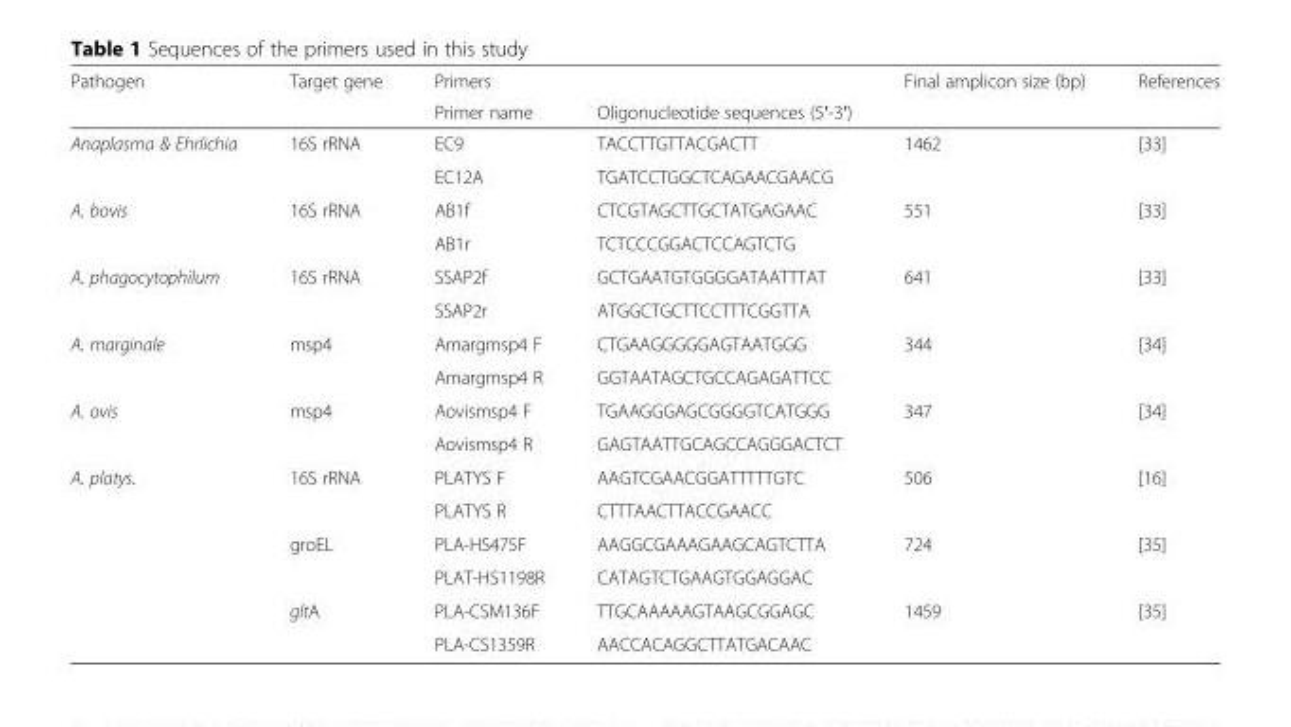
<table><thead><tr><td rowspan="2">Pathogen</td><td rowspan="2">Target gene</td><td colspan="2">Primers</td><td rowspan="2">Final amplicon size (bp)</td><td rowspan="2">References</td></tr><tr><td>Primer name</td><td>Oligonucleotide sequences (5′-3′)</td></tr></thead><tbody><tr><td rowspan="2">Anaplasma &amp; Ehrlichia</td><td rowspan="2">16S rRNA</td><td>EC9</td><td>TACCTTGTTACGACTT</td><td rowspan="2">1462</td><td rowspan="2">[33]</td></tr><tr><td>EC12A</td><td>TGATCCTGGCTCAGAACGAACG</td></tr><tr><td rowspan="2">A. bovis</td><td rowspan="2">16S rRNA</td><td>AB1f</td><td>CTCGTAGCTTGCTATGAGAAC</td><td rowspan="2">551</td><td rowspan="2">[33]</td></tr><tr><td>AB1r</td><td>TCTCCCGGACTCCAGTCTG</td></tr><tr><td rowspan="2">A. phagocytophilum</td><td rowspan="2">16S rRNA</td><td>SSAP2f</td><td>GCTGAATGTGGGGATAATTTAT</td><td rowspan="2">641</td><td rowspan="2">[33]</td></tr><tr><td>SSAP2r</td><td>ATGGCTGCTTCCTTTCGGTTA</td></tr><tr><td rowspan="2">A. marginale</td><td rowspan="2">msp4</td><td>Amargmsp4 F</td><td>CTGAAGGGGGAGTAATGGG</td><td rowspan="2">344</td><td rowspan="2">[34]</td></tr><tr><td>Amargmsp4 R</td><td>GGTAATAGCTGCCAGAGATTCC</td></tr><tr><td rowspan="2">A. ovis</td><td rowspan="2">msp4</td><td>Aovismsp4 F</td><td>TGAAGGGAGCGGGGTCATGGG</td><td rowspan="2">347</td><td rowspan="2">[34]</td></tr><tr><td>Aovismsp4 R</td><td>GAGTAATTGCAGCCAGGGACTCT</td></tr><tr><td rowspan="6">A. platys.</td><td rowspan="2">16S rRNA</td><td>PLATYS F</td><td>AAGTCGAACGGATTTTTGTC</td><td rowspan="2">506</td><td rowspan="2">[16]</td></tr><tr><td>PLATYS R</td><td>CTTTAACTTACCGAACC</td></tr><tr><td rowspan="2">groEL</td><td>PLA-HS475F</td><td>AAGGCGAAAGAAGCAGTCTTA</td><td rowspan="2">724</td><td rowspan="2">[35]</td></tr><tr><td>PLAT-HS1198R</td><td>CATAGTCTGAAGTGGAGGAC</td></tr><tr><td rowspan="2">gltA</td><td>PLA-CSM136F</td><td>TTGCAAAAAGTAAGCGGAGC</td><td rowspan="2">1459</td><td rowspan="2">[35]</td></tr><tr><td>PLA-CS1359R</td><td>AACCACAGGCTTATGACAAC</td></tr></tbody></table>